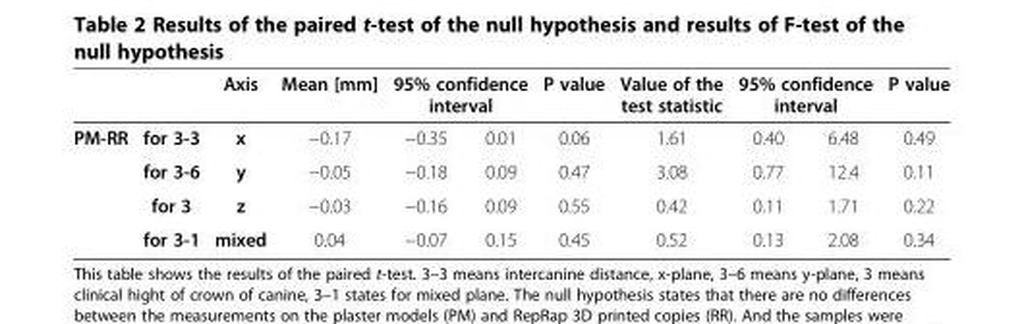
<table><thead><tr><td rowspan="2">PM-RR</td><td rowspan="2">for 3-3</td><td rowspan="2">Axis x</td><td rowspan="2">Mean [mm] −0.17</td><td colspan="2">95% confidence interval</td><td rowspan="2">P value 0.06</td><td rowspan="2">Value of the test statistic 1.61</td><td colspan="2">95% confidence interval</td><td rowspan="2">P value 0.49</td></tr><tr><td>−0.35</td><td>0.01</td><td>0.40</td><td>6.48</td></tr></thead><tbody><tr><td></td><td>for 3-6</td><td>y</td><td>−0.05</td><td>−0.18</td><td>0.09</td><td>0.47</td><td>3.08</td><td>0.77</td><td>12.4</td><td>0.11</td></tr><tr><td></td><td>for 3</td><td>z</td><td>−0.03</td><td>−0.16</td><td>0.09</td><td>0.55</td><td>0.42</td><td>0.11</td><td>1.71</td><td>0.22</td></tr><tr><td></td><td>for 3-1</td><td>mixed</td><td>0.04</td><td>−0.07</td><td>0.15</td><td>0.45</td><td>0.52</td><td>0.13</td><td>2.08</td><td>0.34</td></tr></tbody></table>